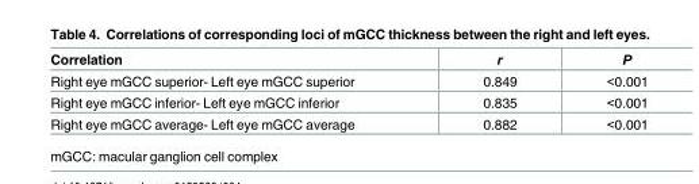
<table><thead><tr><td>Correlation</td><td>r</td><td>P</td></tr></thead><tbody><tr><td>Right eye mGCC superior- Left eye mGCC superior</td><td>0.849</td><td>&lt;0.001</td></tr><tr><td>Right eye mGCC inferior- Left eye mGCC inferior</td><td>0.835</td><td>&lt;0.001</td></tr><tr><td>Right eye mGCC average- Left eye mGCC average</td><td>0.882</td><td>&lt;0.001</td></tr></tbody></table>